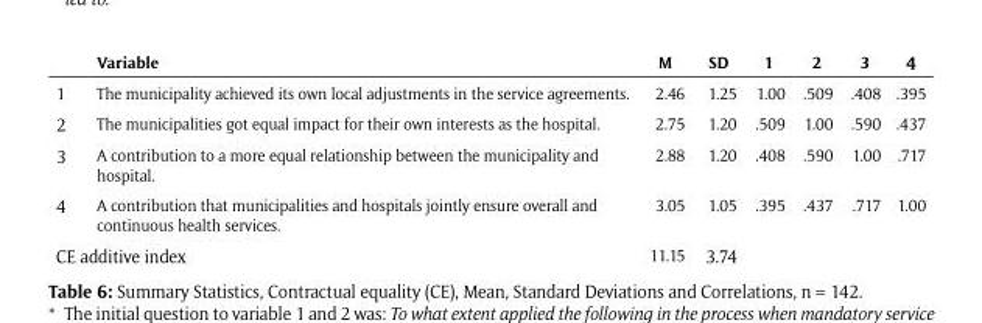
<table><thead><tr><td></td><td>Variable</td><td>M</td><td>SD</td><td>1</td><td>2</td><td>3</td><td>4</td></tr></thead><tbody><tr><td>1</td><td>The municipality achieved its own local adjustments in the service agreements.</td><td>2.46</td><td>1.25</td><td>1.00</td><td>.509</td><td>.408</td><td>.395</td></tr><tr><td>2</td><td>The municipalities got equal impact for their own interests as the hospital.</td><td>2.75</td><td>1.20</td><td>.509</td><td>1.00</td><td>.590</td><td>.437</td></tr><tr><td>3</td><td>A contribution to a more equal relationship between the municipality and hospital.</td><td>2.88</td><td>1.20</td><td>.408</td><td>.590</td><td>1.00</td><td>.717</td></tr><tr><td>4</td><td>A contribution that municipalities and hospitals jointly ensure overall and continuous health services.</td><td>3.05</td><td>1.05</td><td>.395</td><td>.437</td><td>.717</td><td>1.00</td></tr><tr><td colspan="2">CE additive index</td><td>11.15</td><td>3.74</td><td></td><td></td><td></td><td></td></tr></tbody></table>